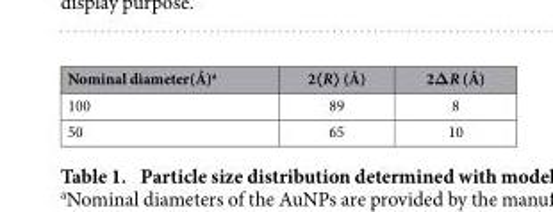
<table><thead><tr><td>Nominal diameter(Å)<sup>a</sup></td><td>2〈R〉 (Å)</td><td>2ΔR (Å)</td></tr></thead><tbody><tr><td>100</td><td>89</td><td>8</td></tr><tr><td>50</td><td>65</td><td>10</td></tr></tbody></table>